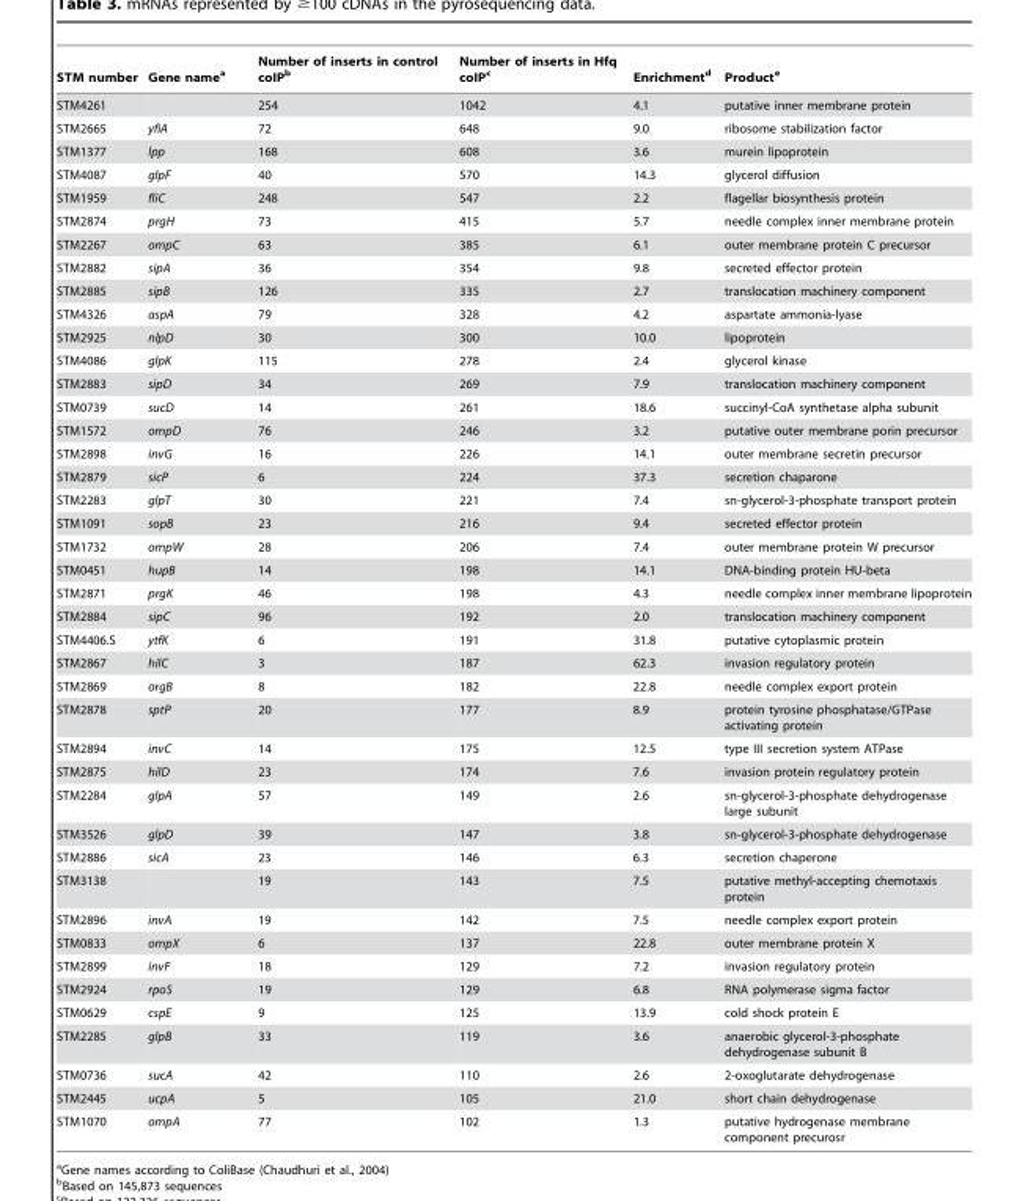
<table><thead><tr><td>STM number</td><td>Gene name<sup>a</sup></td><td>Number of inserts in control coIP<sup>b</sup></td><td>Number of inserts in Hfq coIP<sup>c</sup></td><td>Enrichment<sup>d</sup></td><td>Product<sup>e</sup></td></tr></thead><tbody><tr><td>STM4261</td><td></td><td>254</td><td>1042</td><td>4.1</td><td>putative inner membrane protein</td></tr><tr><td>STM2665</td><td>yfiA</td><td>72</td><td>648</td><td>9.0</td><td>ribosome stabilization factor</td></tr><tr><td>STM1377</td><td>lpp</td><td>168</td><td>608</td><td>3.6</td><td>murein lipoprotein</td></tr><tr><td>STM4087</td><td>glpF</td><td>40</td><td>570</td><td>14.3</td><td>glycerol diffusion</td></tr><tr><td>STM1959</td><td>fliC</td><td>248</td><td>547</td><td>2.2</td><td>flagellar biosynthesis protein</td></tr><tr><td>STM2874</td><td>prgH</td><td>73</td><td>415</td><td>5.7</td><td>needle complex inner membrane protein</td></tr><tr><td>STM2267</td><td>ompC</td><td>63</td><td>385</td><td>6.1</td><td>outer membrane protein C precursor</td></tr><tr><td>STM2882</td><td>sipA</td><td>36</td><td>354</td><td>9.8</td><td>secreted effector protein</td></tr><tr><td>STM2885</td><td>sipB</td><td>126</td><td>335</td><td>2.7</td><td>translocation machinery component</td></tr><tr><td>STM4326</td><td>aspA</td><td>79</td><td>328</td><td>4.2</td><td>aspartate ammonia-lyase</td></tr><tr><td>STM2925</td><td>nlpD</td><td>30</td><td>300</td><td>10.0</td><td>lipoprotein</td></tr><tr><td>STM4086</td><td>glpK</td><td>115</td><td>278</td><td>2.4</td><td>glycerol kinase</td></tr><tr><td>STM2883</td><td>sipD</td><td>34</td><td>269</td><td>7.9</td><td>translocation machinery component</td></tr><tr><td>STM0739</td><td>sucD</td><td>14</td><td>261</td><td>18.6</td><td>succinyl-CoA synthetase alpha subunit</td></tr><tr><td>STM1572</td><td>ompD</td><td>76</td><td>246</td><td>3.2</td><td>putative outer membrane porin precursor</td></tr><tr><td>STM2898</td><td>invG</td><td>16</td><td>226</td><td>14.1</td><td>outer membrane secretin precursor</td></tr><tr><td>STM2879</td><td>sicP</td><td>6</td><td>224</td><td>37.3</td><td>secretion chaparone</td></tr><tr><td>STM2283</td><td>glpT</td><td>30</td><td>221</td><td>7.4</td><td>sn-glycerol-3-phosphate transport protein</td></tr><tr><td>STM1091</td><td>sopB</td><td>23</td><td>216</td><td>9.4</td><td>secreted effector protein</td></tr><tr><td>STM1732</td><td>ompW</td><td>28</td><td>206</td><td>7.4</td><td>outer membrane protein W precursor</td></tr><tr><td>STM0451</td><td>hupB</td><td>14</td><td>198</td><td>14.1</td><td>DNA-binding protein HU-beta</td></tr><tr><td>STM2871</td><td>prgK</td><td>46</td><td>198</td><td>4.3</td><td>needle complex inner membrane lipoprotein</td></tr><tr><td>STM2884</td><td>sipC</td><td>96</td><td>192</td><td>2.0</td><td>translocation machinery component</td></tr><tr><td>STM4406.S</td><td>ytfK</td><td>6</td><td>191</td><td>31.8</td><td>putative cytoplasmic protein</td></tr><tr><td>STM2867</td><td>hilC</td><td>3</td><td>187</td><td>62.3</td><td>invasion regulatory protein</td></tr><tr><td>STM2869</td><td>orgB</td><td>8</td><td>182</td><td>22.8</td><td>needle complex export protein</td></tr><tr><td>STM2878</td><td>sptP</td><td>20</td><td>177</td><td>8.9</td><td>protein tyrosine phosphatase/GTPase activating protein</td></tr><tr><td>STM2894</td><td>invC</td><td>14</td><td>175</td><td>12.5</td><td>type III secretion system ATPase</td></tr><tr><td>STM2875</td><td>hilD</td><td>23</td><td>174</td><td>7.6</td><td>invasion protein regulatory protein</td></tr><tr><td>STM2284</td><td>glpA</td><td>57</td><td>149</td><td>2.6</td><td>sn-glycerol-3-phosphate dehydrogenase large subunit</td></tr><tr><td>STM3526</td><td>glpD</td><td>39</td><td>147</td><td>3.8</td><td>sn-glycerol-3-phosphate dehydrogenase</td></tr><tr><td>STM2886</td><td>sicA</td><td>23</td><td>146</td><td>6.3</td><td>secretion chaperone</td></tr><tr><td>STM3138</td><td></td><td>19</td><td>143</td><td>7.5</td><td>putative methyl-accepting chemotaxis protein</td></tr><tr><td>STM2896</td><td>invA</td><td>19</td><td>142</td><td>7.5</td><td>needle complex export protein</td></tr><tr><td>STM0833</td><td>ompX</td><td>6</td><td>137</td><td>22.8</td><td>outer membrane protein X</td></tr><tr><td>STM2899</td><td>invF</td><td>18</td><td>129</td><td>7.2</td><td>invasion regulatory protein</td></tr><tr><td>STM2924</td><td>rpoS</td><td>19</td><td>129</td><td>6.8</td><td>RNA polymerase sigma factor</td></tr><tr><td>STM0629</td><td>cspE</td><td>9</td><td>125</td><td>13.9</td><td>cold shock protein E</td></tr><tr><td>STM2285</td><td>glpB</td><td>33</td><td>119</td><td>3.6</td><td>anaerobic glycerol-3-phosphate dehydrogenase subunit B</td></tr><tr><td>STM0736</td><td>sucA</td><td>42</td><td>110</td><td>2.6</td><td>2-oxoglutarate dehydrogenase</td></tr><tr><td>STM2445</td><td>ucpA</td><td>5</td><td>105</td><td>21.0</td><td>short chain dehydrogenase</td></tr><tr><td>STM1070</td><td>ompA</td><td>77</td><td>102</td><td>1.3</td><td>putative hydrogenase membrane component precurosr</td></tr></tbody></table>